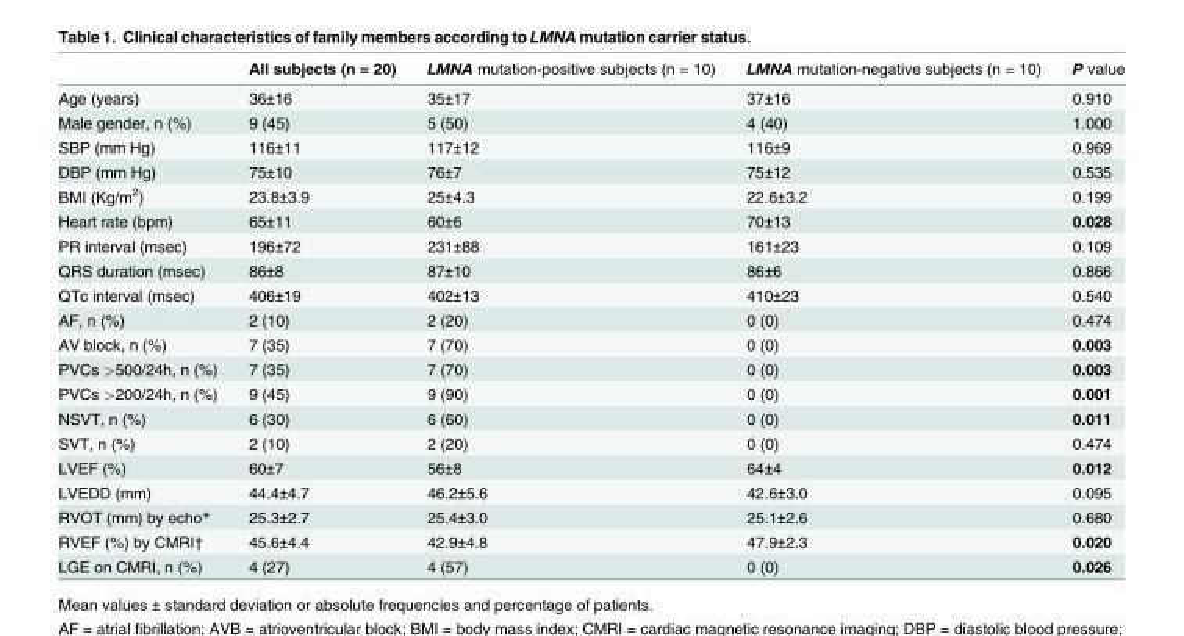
<table><thead><tr><td></td><td>All subjects (n = 20)</td><td>LMNA mutation-positive subjects (n = 10)</td><td>LMNA mutation-negative subjects (n = 10)</td><td>P value</td></tr></thead><tbody><tr><td>Age (years)</td><td>36±16</td><td>35±17</td><td>37±16</td><td>0.910</td></tr><tr><td>Male gender, n (%)</td><td>9 (45)</td><td>5 (50)</td><td>4 (40)</td><td>1.000</td></tr><tr><td>SBP (mm Hg)</td><td>116±11</td><td>117±12</td><td>116±9</td><td>0.969</td></tr><tr><td>DBP (mm Hg)</td><td>75±10</td><td>76±7</td><td>75±12</td><td>0.535</td></tr><tr><td>BMI (Kg/m<sup>2</sup>)</td><td>23.8±3.9</td><td>25±4.3</td><td>22.6±3.2</td><td>0.199</td></tr><tr><td>Heart rate (bpm)</td><td>65±11</td><td>60±6</td><td>70±13</td><td>0.028</td></tr><tr><td>PR interval (msec)</td><td>196±72</td><td>231±88</td><td>161±23</td><td>0.109</td></tr><tr><td>QRS duration (msec)</td><td>86±8</td><td>87±10</td><td>86±6</td><td>0.866</td></tr><tr><td>QTc interval (msec)</td><td>406±19</td><td>402±13</td><td>410±23</td><td>0.540</td></tr><tr><td>AF, n (%)</td><td>2 (10)</td><td>2 (20)</td><td>0 (0)</td><td>0.474</td></tr><tr><td>AV block, n (%)</td><td>7 (35)</td><td>7 (70)</td><td>0 (0)</td><td>0.003</td></tr><tr><td>PVCs &gt;500/24h, n (%)</td><td>7 (35)</td><td>7 (70)</td><td>0 (0)</td><td>0.003</td></tr><tr><td>PVCs &gt;200/24h, n (%)</td><td>9 (45)</td><td>9 (90)</td><td>0 (0)</td><td>0.001</td></tr><tr><td>NSVT, n (%)</td><td>6 (30)</td><td>6 (60)</td><td>0 (0)</td><td>0.011</td></tr><tr><td>SVT, n (%)</td><td>2 (10)</td><td>2 (20)</td><td>0 (0)</td><td>0.474</td></tr><tr><td>LVEF (%)</td><td>60±7</td><td>56±8</td><td>64±4</td><td>0.012</td></tr><tr><td>LVEDD (mm)</td><td>44.4±4.7</td><td>46.2±5.6</td><td>42.6±3.0</td><td>0.095</td></tr><tr><td>RVOT (mm) by echo*</td><td>25.3±2.7</td><td>25.4±3.0</td><td>25.1±2.6</td><td>0.680</td></tr><tr><td>RVEF (%) by CMRI†</td><td>45.6±4.4</td><td>42.9±4.8</td><td>47.9±2.3</td><td>0.020</td></tr><tr><td>LGE on CMRI, n (%)</td><td>4 (27)</td><td>4 (57)</td><td>0 (0)</td><td>0.026</td></tr></tbody></table>